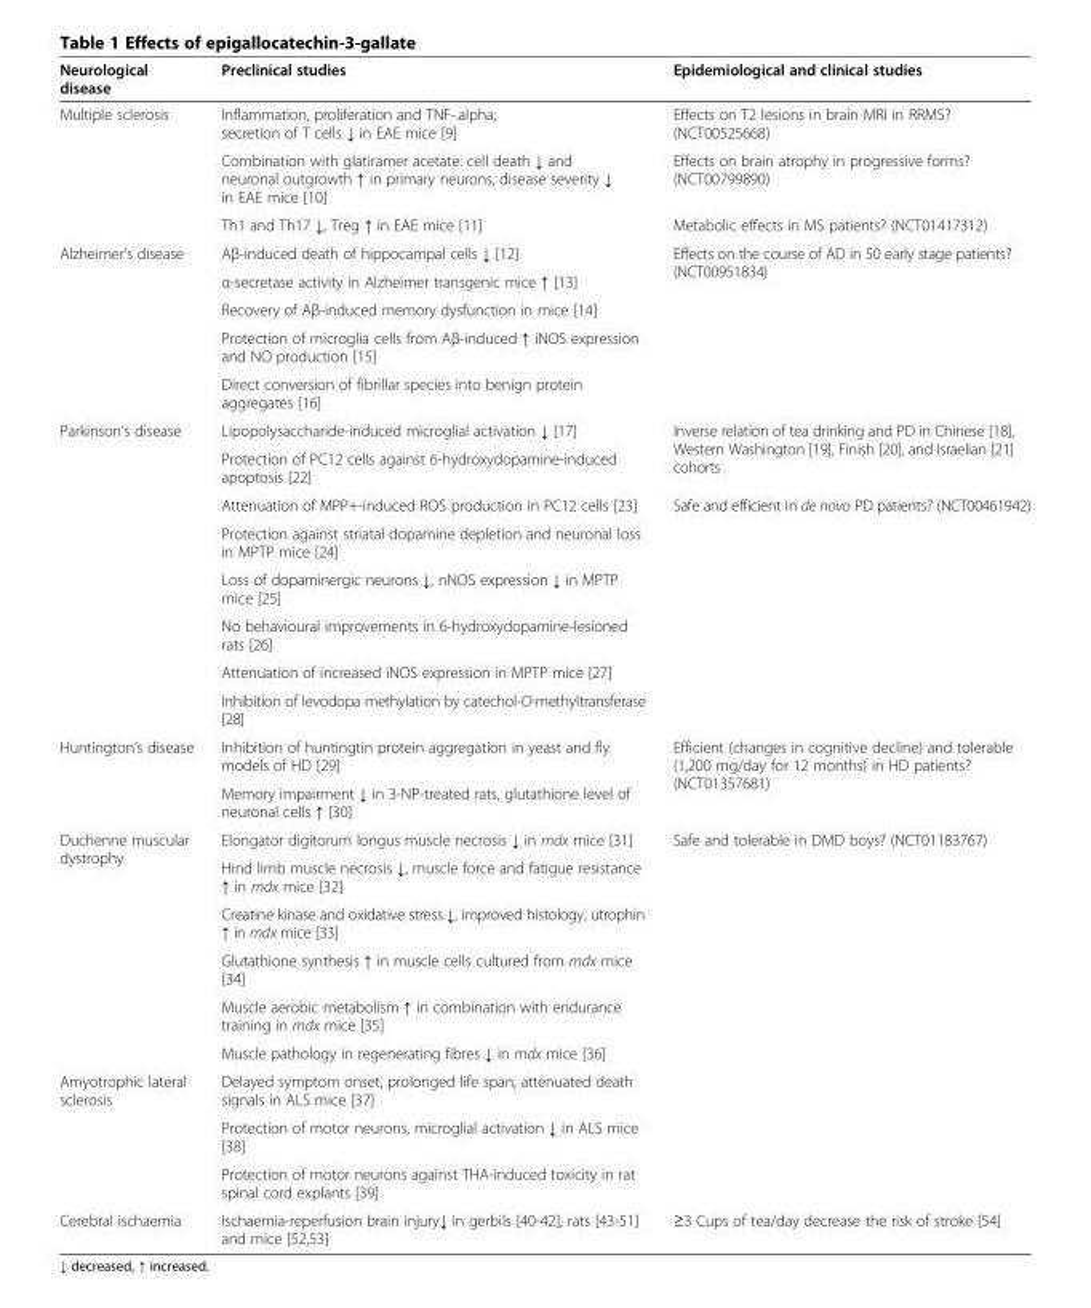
<table><thead><tr><td>Neurological disease</td><td>Preclinical studies</td><td>Epidemiological and clinical studies</td></tr></thead><tbody><tr><td rowspan="3">Multiple sclerosis</td><td>Inflammation, proliferation and TNF-.alpha; secretion of T cells ↓ in EAE mice [9]</td><td>Effects on T2 lesions in brain MRI in RRMS? (NCT00525668)</td></tr><tr><td>Combination with glatiramer acetate: cell death ↓ and neuronal outgrowth ↑ in primary neurons, disease severity ↓ in EAE mice [10]</td><td>Effects on brain atrophy in progressive forms? (NCT00799890)</td></tr><tr><td>Th1 and Th17 ↓, Treg ↑ in EAE mice [11]</td><td>Metabolic effects in MS patients? (NCT01417312)</td></tr><tr><td rowspan="5">Alzheimer’s disease</td><td>Aβ-induced death of hippocampal cells ↓ [12]</td><td rowspan="5">Effects on the course of AD in 50 early stage patients? (NCT00951834)</td></tr><tr><td>α-secretase activity in Alzheimer transgenic mice ↑ [13]</td></tr><tr><td>Recovery of Aβ-induced memory dysfunction in mice [14]</td></tr><tr><td>Protection of microglia cells from Aβ-induced ↑ iNOS expression and NO production [15]</td></tr><tr><td>Direct conversion of fibrillar species into benign protein aggregates [16]</td></tr><tr><td rowspan="8">Parkinson’s disease</td><td>Lipopolysaccharide-induced microglial activation ↓ [17]</td><td rowspan="2">Inverse relation of tea drinking and PD in Chinese [18], Western Washington [19], Finish [20], and Israelian [21] cohorts</td></tr><tr><td>Protection of PC12 cells against 6-hydroxydopamine-induced apoptosis [22]</td></tr><tr><td>Attenuation of MPP+-induced ROS production in PC12 cells [23]</td><td rowspan="6">Safe and efficient in de novo PD patients? (NCT00461942)</td></tr><tr><td>Protection against striatal dopamine depletion and neuronal loss in MPTP mice [24]</td></tr><tr><td>Loss of dopaminergic neurons ↓, nNOS expression ↓ in MPTP mice [25]</td></tr><tr><td>No behavioural improvements in 6-hydroxydopamine-lesioned rats [26]</td></tr><tr><td>Attenuation of increased iNOS expression in MPTP mice [27]</td></tr><tr><td>Inhibition of levodopa methylation by catechol-O-methyltransferase [28]</td></tr><tr><td rowspan="2">Huntington’s disease</td><td>Inhibition of huntingtin protein aggregation in yeast and fly models of HD [29]</td><td rowspan="2">Efficient (changes in cognitive decline) and tolerable (1,200 mg/day for 12 months) in HD patients? (NCT01357681)</td></tr><tr><td>Memory impairment ↓ in 3-NP-treated rats, glutathione level of neuronal cells ↑ [30]</td></tr><tr><td rowspan="6">Duchenne muscular dystrophy</td><td>Elongator digitorum longus muscle necrosis ↓ in mdx mice [31]</td><td>Safe and tolerable in DMD boys? (NCT01183767)</td></tr><tr><td>Hind limb muscle necrosis ↓, muscle force and fatigue resistance ↑ in mdx mice [32]</td><td rowspan="5"></td></tr><tr><td>Creatine kinase and oxidative stress ↓, improved histology, utrophin ↑ in mdx mice [33]</td></tr><tr><td>Glutathione synthesis ↑ in muscle cells cultured from mdx mice [34]</td></tr><tr><td>Muscle aerobic metabolism ↑ in combination with endurance training in mdx mice [35]</td></tr><tr><td>Muscle pathology in regenerating fibres ↓ in mdx mice [36]</td></tr><tr><td rowspan="3">Amyotrophic lateral sclerosis</td><td>Delayed symptom onset, prolonged life span, attenuated death signals in ALS mice [37]</td><td rowspan="3"></td></tr><tr><td>Protection of motor neurons, microglial activation ↓ in ALS mice [38]</td></tr><tr><td>Protection of motor neurons against THA-induced toxicity in rat spinal cord explants [39]</td></tr><tr><td>Cerebral ischaemia</td><td>Ischaemia-reperfusion brain injury↓ in gerbils [40-42], rats [43-51] and mice [52,53]</td><td>≥3 Cups of tea/day decrease the risk of stroke [54]</td></tr></tbody></table>